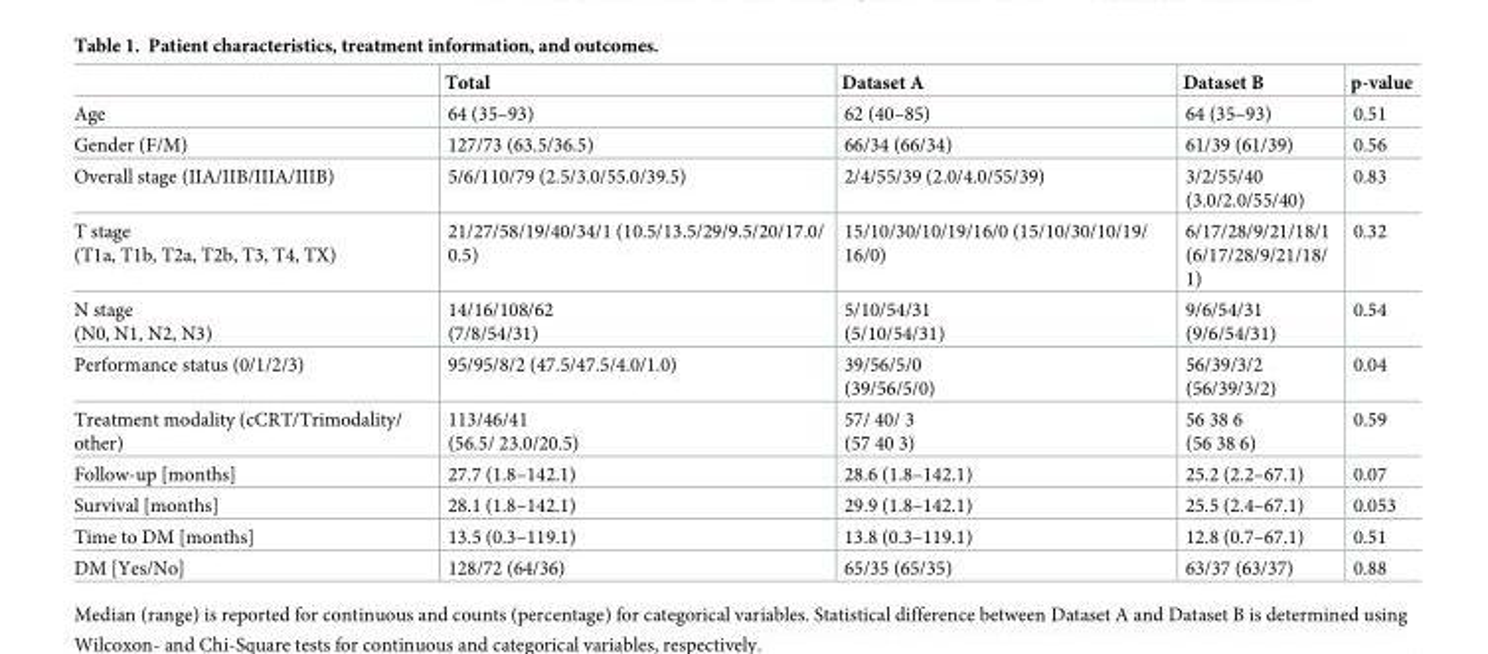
<table><thead><tr><td></td><td>Total</td><td>Dataset A</td><td>Dataset B</td><td>p-value</td></tr></thead><tbody><tr><td>Age</td><td>64 (35–93)</td><td>62 (40–85)</td><td>64 (35–93)</td><td>0.51</td></tr><tr><td>Gender (F/M)</td><td>127/73 (63.5/36.5)</td><td>66/34 (66/34)</td><td>61/39 (61/39)</td><td>0.56</td></tr><tr><td>Overall stage (IIA/IIB/IIIA/IIIB)</td><td>5/6/110/79 (2.5/3.0/55.0/39.5)</td><td>2/4/55/39 (2.0/4.0/55/39)</td><td>3/2/55/40 (3.0/2.0/55/40)</td><td>0.83</td></tr><tr><td>T stage (T1a, T1b, T2a, T2b, T3, T4, TX)</td><td>21/27/58/19/40/34/1 (10.5/13.5/29/9.5/20/17.0/ 0.5)</td><td>15/10/30/10/19/16/0 (15/10/30/10/19/ 16/0)</td><td>6/17/28/9/21/18/1 (6/17/28/9/21/18/ 1)</td><td>0.32</td></tr><tr><td>N stage (N0, N1, N2, N3)</td><td>14/16/108/62 (7/8/54/31)</td><td>5/10/54/31 (5/10/54/31)</td><td>9/6/54/31 (9/6/54/31)</td><td>0.54</td></tr><tr><td>Performance status (0/1/2/3)</td><td>95/95/8/2 (47.5/47.5/4.0/1.0)</td><td>39/56/5/0 (39/56/5/0)</td><td>56/39/3/2 (56/39/3/2)</td><td>0.04</td></tr><tr><td>Treatment modality (cCRT/Trimodality/ other)</td><td>113/46/41 (56.5/ 23.0/20.5)</td><td>57/ 40/ 3 (57 40 3)</td><td>56 38 6 (56 38 6)</td><td>0.59</td></tr><tr><td>Follow-up [months]</td><td>27.7 (1.8–142.1)</td><td>28.6 (1.8–142.1)</td><td>25.2 (2.2–67.1)</td><td>0.07</td></tr><tr><td>Survival [months]</td><td>28.1 (1.8–142.1)</td><td>29.9 (1.8–142.1)</td><td>25.5 (2.4–67.1)</td><td>0.053</td></tr><tr><td>Time to DM [months]</td><td>13.5 (0.3–119.1)</td><td>13.8 (0.3–119.1)</td><td>12.8 (0.7–67.1)</td><td>0.51</td></tr><tr><td>DM [Yes/No]</td><td>128/72 (64/36)</td><td>65/35 (65/35)</td><td>63/37 (63/37)</td><td>0.88</td></tr></tbody></table>